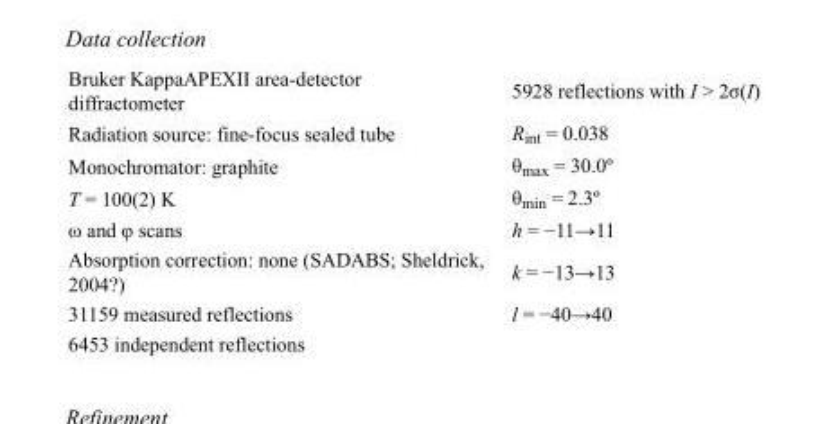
<table><tbody><tr><td>Bruker KappaAPEXII area-detector diffractometer</td><td>5928 reflections with I &gt; 2σ(I)</td></tr><tr><td>Radiation source: fine-focus sealed tube</td><td>R<sub>int</sub> = 0.038</td></tr><tr><td>Monochromator: graphite</td><td>θ<sub>max</sub> = 30.0º</td></tr><tr><td>T = 100(2) K</td><td>θ<sub>min</sub> = 2.3º</td></tr><tr><td>ω and φ scans</td><td>h = −11→11</td></tr><tr><td>Absorption correction: none (SADABS; Sheldrick, 2004?)</td><td>k = −13→13</td></tr><tr><td>31159 measured reflections</td><td>l = −40→40</td></tr><tr><td>6453 independent reflections</td><td></td></tr></tbody></table>